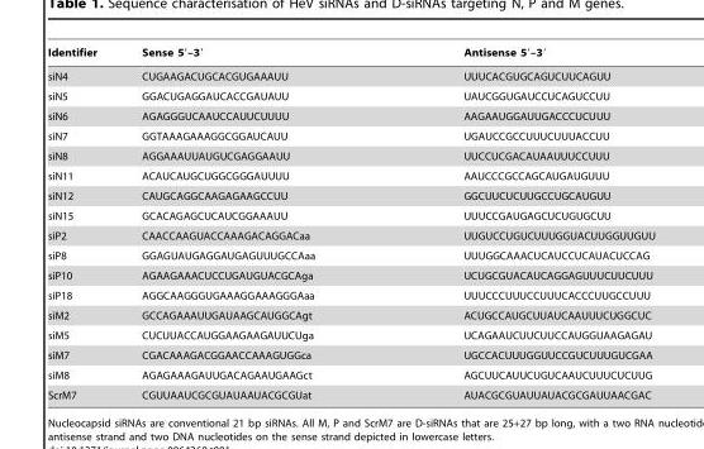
<table><thead><tr><td>Identifier</td><td>Sense 5′–3′</td><td>Antisense 5′–3′</td></tr></thead><tbody><tr><td>siN4</td><td>CUGAAGACUGCACGUGAAAUU</td><td>UUUCACGUGCAGUCUUCAGUU</td></tr><tr><td>siN5</td><td>GGACUGAGGAUCACCGAUAUU</td><td>UAUCGGUGAUCCUCAGUCCUU</td></tr><tr><td>siN6</td><td>AGAGGGUCAAUCCAUUCUUUU</td><td>AAGAAUGGAUUGACCCUCUUU</td></tr><tr><td>siN7</td><td>GGTAAAGAAAGGCGGAUCAUU</td><td>UGAUCCGCCUUUCUUUACCUU</td></tr><tr><td>siN8</td><td>AGGAAAUUAUGUCGAGGAAUU</td><td>UUCCUCGACAUAAUUUCCUUU</td></tr><tr><td>siN11</td><td>ACAUCAUGCUGGCGGGAUUUU</td><td>AAUCCCGCCAGCAUGAUGUUU</td></tr><tr><td>siN12</td><td>CAUGCAGGCAAGAGAAGCCUU</td><td>GGCUUCUCUUGCCUGCAUGUU</td></tr><tr><td>siN15</td><td>GCACAGAGCUCAUCGGAAAUU</td><td>UUUCCGAUGAGCUCUGUGCUU</td></tr><tr><td>siP2</td><td>CAACCAAGUACCAAAGACAGGACaa</td><td>UUGUCCUGUCUUUGGUACUUGGUUGUU</td></tr><tr><td>siP8</td><td>GGAGUAUGAGGAUGAGUUUGCCAaa</td><td>UUUGGCAAACUCAUCCUCAUACUCCAG</td></tr><tr><td>siP10</td><td>AGAAGAAACUCCUGAUGUACGCAga</td><td>UCUGCGUACAUCAGGAGUUUCUUCUUU</td></tr><tr><td>siP18</td><td>AGGCAAGGGUGAAAGGAAAGGGAaa</td><td>UUUCCCUUUCCUUUCACCCUUGCCUUU</td></tr><tr><td>siM2</td><td>GCCAGAAAUUGAUAAGCAUGGCAgt</td><td>ACUGCCAUGCUUAUCAAUUUCUGGCUC</td></tr><tr><td>siM5</td><td>CUCUUACCAUGGAAGAAGAUUCUga</td><td>UCAGAAUCUUCUUCCAUGGUAAGAGAU</td></tr><tr><td>siM7</td><td>CGACAAAGACGGAACCAAAGUGGca</td><td>UGCCACUUUGGUUCCGUCUUUGUCGAA</td></tr><tr><td>siM8</td><td>AGAGAAAGAUUGACAGAAUGAAGct</td><td>AGCUUCAUUCUGUCAAUCUUUCUCUUG</td></tr><tr><td>ScrM7</td><td>CGUUAAUCGCGUAUAAUACGCGUat</td><td>AUACGCGUAUUAUACGCGAUUAACGAC</td></tr></tbody></table>